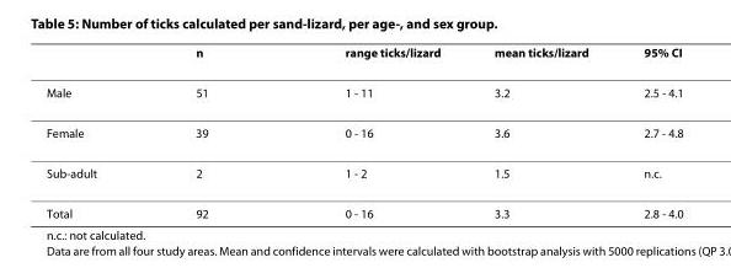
<table><thead><tr><td></td><td>n</td><td>range ticks/lizard</td><td>mean ticks/lizard</td><td>95% CI</td></tr></thead><tbody><tr><td>Male</td><td>51</td><td>1 - 11</td><td>3.2</td><td>2.5 - 4.1</td></tr><tr><td>Female</td><td>39</td><td>0 - 16</td><td>3.6</td><td>2.7 - 4.8</td></tr><tr><td>Sub-adult</td><td>2</td><td>1 - 2</td><td>1.5</td><td>n.c.</td></tr><tr><td>Total</td><td>92</td><td>0 - 16</td><td>3.3</td><td>2.8 - 4.0</td></tr></tbody></table>